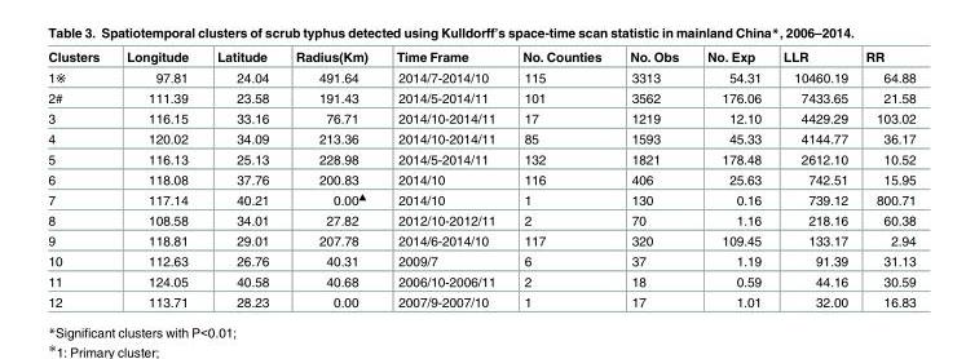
<table><thead><tr><td>Clusters</td><td>Longitude</td><td>Latitude</td><td>Radius(Km)</td><td>Time Frame</td><td>No. Counties</td><td>No. Obs</td><td>No. Exp</td><td>LLR</td><td>RR</td></tr></thead><tbody><tr><td>1※</td><td>97.81</td><td>24.04</td><td>491.64</td><td>2014/7-2014/10</td><td>115</td><td>3313</td><td>54.31</td><td>10460.19</td><td>64.88</td></tr><tr><td>2#</td><td>111.39</td><td>23.58</td><td>191.43</td><td>2014/5-2014/11</td><td>101</td><td>3562</td><td>176.06</td><td>7433.65</td><td>21.58</td></tr><tr><td>3</td><td>116.15</td><td>33.16</td><td>76.71</td><td>2014/10-2014/11</td><td>17</td><td>1219</td><td>12.10</td><td>4429.29</td><td>103.02</td></tr><tr><td>4</td><td>120.02</td><td>34.09</td><td>213.36</td><td>2014/10-2014/11</td><td>85</td><td>1593</td><td>45.33</td><td>4144.77</td><td>36.17</td></tr><tr><td>5</td><td>116.13</td><td>25.13</td><td>228.98</td><td>2014/5-2014/11</td><td>132</td><td>1821</td><td>178.48</td><td>2612.10</td><td>10.52</td></tr><tr><td>6</td><td>118.08</td><td>37.76</td><td>200.83</td><td>2014/10</td><td>116</td><td>406</td><td>25.63</td><td>742.51</td><td>15.95</td></tr><tr><td>7</td><td>117.14</td><td>40.21</td><td>0.00<sup>▲</sup></td><td>2014/10</td><td>1</td><td>130</td><td>0.16</td><td>739.12</td><td>800.71</td></tr><tr><td>8</td><td>108.58</td><td>34.01</td><td>27.82</td><td>2012/10-2012/11</td><td>2</td><td>70</td><td>1.16</td><td>218.16</td><td>60.38</td></tr><tr><td>9</td><td>118.81</td><td>29.01</td><td>207.78</td><td>2014/6-2014/10</td><td>117</td><td>320</td><td>109.45</td><td>133.17</td><td>2.94</td></tr><tr><td>10</td><td>112.63</td><td>26.76</td><td>40.31</td><td>2009/7</td><td>6</td><td>37</td><td>1.19</td><td>91.39</td><td>31.13</td></tr><tr><td>11</td><td>124.05</td><td>40.58</td><td>40.68</td><td>2006/10-2006/11</td><td>2</td><td>18</td><td>0.59</td><td>44.16</td><td>30.59</td></tr><tr><td>12</td><td>113.71</td><td>28.23</td><td>0.00</td><td>2007/9-2007/10</td><td>1</td><td>17</td><td>1.01</td><td>32.00</td><td>16.83</td></tr></tbody></table>